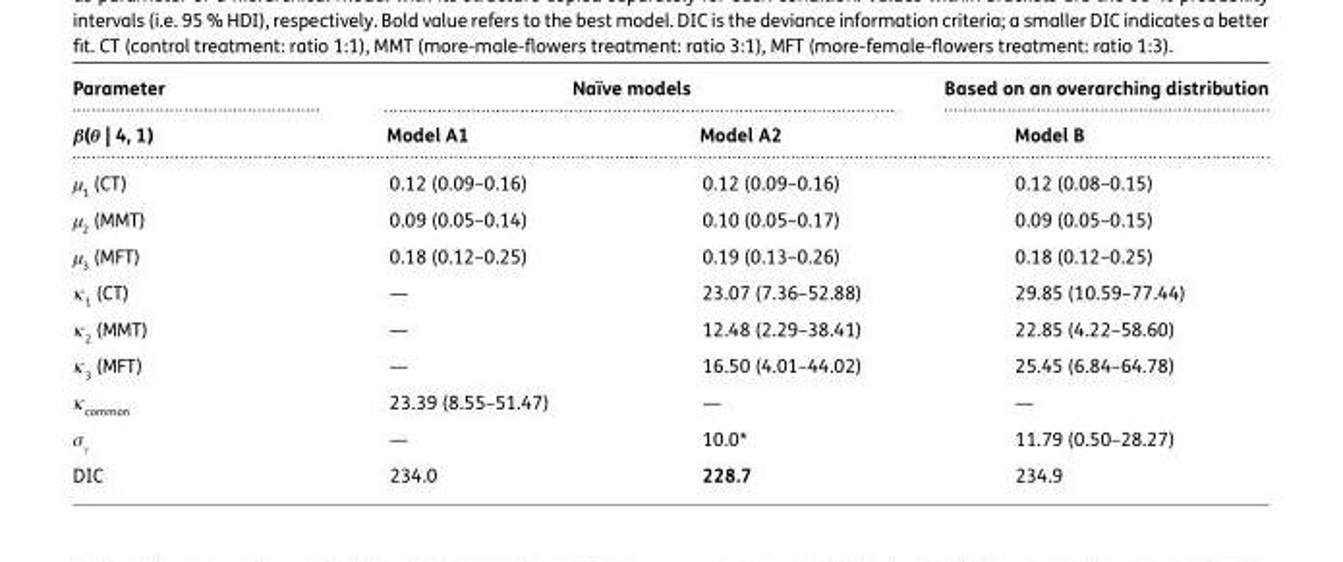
<table><thead><tr><td rowspan="2">Parameter β(θ | 4, 1)</td><td colspan="2">Naïve models</td><td rowspan="2">Based on an overarching distribution Model B</td></tr><tr><td>Model A1</td><td>Model A2</td></tr></thead><tbody><tr><td>μ<sub>1</sub> (CT)</td><td>0.12 (0.09–0.16)</td><td>0.12 (0.09–0.16)</td><td>0.12 (0.08–0.15)</td></tr><tr><td>μ<sub>2</sub> (MMT)</td><td>0.09 (0.05–0.14)</td><td>0.10 (0.05–0.17)</td><td>0.09 (0.05–0.15)</td></tr><tr><td>μ<sub>3</sub> (MFT)</td><td>0.18 (0.12–0.25)</td><td>0.19 (0.13–0.26)</td><td>0.18 (0.12–0.25)</td></tr><tr><td>κ<sub>1</sub> (CT)</td><td>—</td><td>23.07 (7.36–52.88)</td><td>29.85 (10.59–77.44)</td></tr><tr><td>κ<sub>2</sub> (MMT)</td><td>—</td><td>12.48 (2.29–38.41)</td><td>22.85 (4.22–58.60)</td></tr><tr><td>κ<sub>3</sub> (MFT)</td><td>—</td><td>16.50 (4.01–44.02)</td><td>25.45 (6.84–64.78)</td></tr><tr><td>κ<sub>common</sub></td><td>23.39 (8.55–51.47)</td><td>—</td><td>—</td></tr><tr><td>σ<sub>γ</sub></td><td>—</td><td>10.0*</td><td>11.79 (0.50–28.27)</td></tr><tr><td>DIC</td><td>234.0</td><td>228.7</td><td>234.9</td></tr></tbody></table>